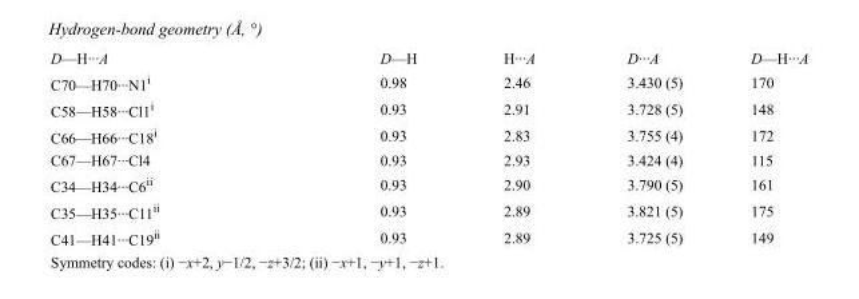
<table><tbody><tr><td>D—H···A</td><td>D—H</td><td>H···A</td><td>D···A</td><td>D—H···A</td></tr><tr><td>C70—H70···N1<sup>i</sup></td><td>0.98</td><td>2.46</td><td>3.430 (5)</td><td>170</td></tr><tr><td>C58—H58···Cl1<sup>i</sup></td><td>0.93</td><td>2.91</td><td>3.728 (5)</td><td>148</td></tr><tr><td>C66—H66···C18<sup>i</sup></td><td>0.93</td><td>2.83</td><td>3.755 (4)</td><td>172</td></tr><tr><td>C67—H67···Cl4</td><td>0.93</td><td>2.93</td><td>3.424 (4)</td><td>115</td></tr><tr><td>C34—H34···C6<sup>ii</sup></td><td>0.93</td><td>2.90</td><td>3.790 (5)</td><td>161</td></tr><tr><td>C35—H35···C11<sup>ii</sup></td><td>0.93</td><td>2.89</td><td>3.821 (5)</td><td>175</td></tr><tr><td>C41—H41···C19<sup>ii</sup></td><td>0.93</td><td>2.89</td><td>3.725 (5)</td><td>149</td></tr></tbody></table>